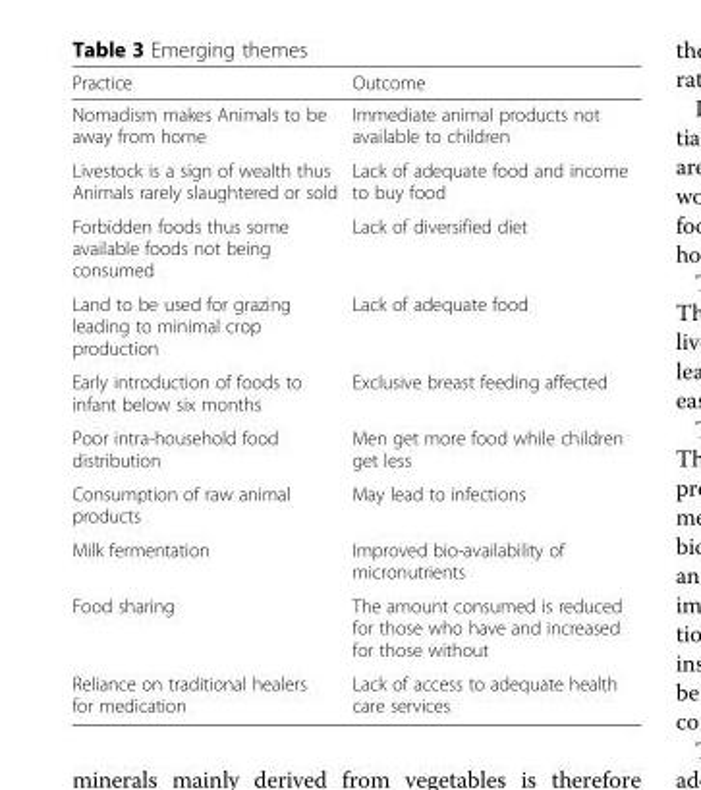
<table><thead><tr><td>Practice</td><td>Outcome</td></tr></thead><tbody><tr><td>Nomadism makes Animals to be away from home</td><td>Immediate animal products not available to children</td></tr><tr><td>Livestock is a sign of wealth thus Animals rarely slaughtered or sold</td><td>Lack of adequate food and income to buy food</td></tr><tr><td>Forbidden foods thus some available foods not being consumed</td><td>Lack of diversified diet</td></tr><tr><td>Land to be used for grazing leading to minimal crop production</td><td>Lack of adequate food</td></tr><tr><td>Early introduction of foods to infant below six months</td><td>Exclusive breast feeding affected</td></tr><tr><td>Poor intra-household food distribution</td><td>Men get more food while children get less</td></tr><tr><td>Consumption of raw animal products</td><td>May lead to infections</td></tr><tr><td>Milk fermentation</td><td>Improved bio-availability of micronutrients</td></tr><tr><td>Food sharing</td><td>The amount consumed is reduced for those who have and increased for those without</td></tr><tr><td>Reliance on traditional healers for medication</td><td>Lack of access to adequate health care services</td></tr></tbody></table>